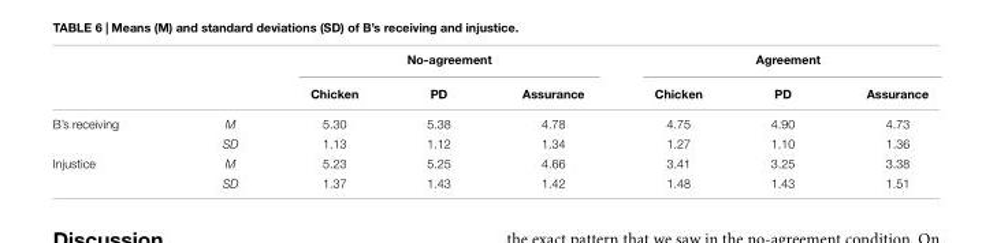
<table><thead><tr><td rowspan="2"></td><td rowspan="2"></td><td colspan="3">No-agreement</td><td colspan="3">Agreement</td></tr><tr><td>Chicken</td><td>PD</td><td>Assurance</td><td>Chicken</td><td>PD</td><td>Assurance</td></tr></thead><tbody><tr><td rowspan="2">B’s receiving</td><td>M</td><td>5.30</td><td>5.38</td><td>4.78</td><td>4.75</td><td>4.90</td><td>4.73</td></tr><tr><td>SD</td><td>1.13</td><td>1.12</td><td>1.34</td><td>1.27</td><td>1.10</td><td>1.36</td></tr><tr><td rowspan="2">Injustice</td><td>M</td><td>5.23</td><td>5.25</td><td>4.66</td><td>3.41</td><td>3.25</td><td>3.38</td></tr><tr><td>SD</td><td>1.37</td><td>1.43</td><td>1.42</td><td>1.48</td><td>1.43</td><td>1.51</td></tr></tbody></table>